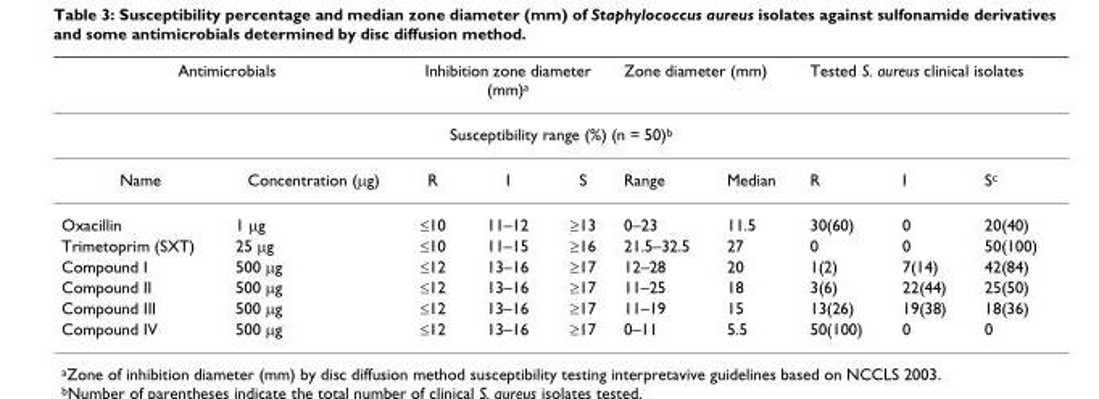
<table><thead><tr><td colspan="2">Antimicrobials</td><td colspan="3">Inhibition zone diameter (mm)<sup>a</sup></td><td colspan="2">Zone diameter (mm)</td><td colspan="3">Tested S. aureus clinical isolates</td></tr><tr><td colspan="10">Susceptibility range (%) (n = 50)<sup>b</sup></td></tr><tr><td>Name</td><td>Concentration (μg)</td><td>R</td><td>I</td><td>S</td><td>Range</td><td>Median</td><td>R</td><td>I</td><td>S<sup>c</sup></td></tr></thead><tbody><tr><td>Oxacillin</td><td>1 μg</td><td>≤10</td><td>11–12</td><td>≥13</td><td>0–23</td><td>11.5</td><td>30(60)</td><td>0</td><td>20(40)</td></tr><tr><td>Trimetoprim (SXT)</td><td>25 μg</td><td>≤10</td><td>11–15</td><td>≥16</td><td>21.5–32.5</td><td>27</td><td>0</td><td>0</td><td>50(100)</td></tr><tr><td>Compound I</td><td>500 μg</td><td>≤12</td><td>13–16</td><td>≥17</td><td>12–28</td><td>20</td><td>1(2)</td><td>7(14)</td><td>42(84)</td></tr><tr><td>Compound II</td><td>500 μg</td><td>≤12</td><td>13–16</td><td>≥17</td><td>11–25</td><td>18</td><td>3(6)</td><td>22(44)</td><td>25(50)</td></tr><tr><td>Compound III</td><td>500 μg</td><td>≤12</td><td>13–16</td><td>≥17</td><td>11–19</td><td>15</td><td>13(26)</td><td>19(38)</td><td>18(36)</td></tr><tr><td>Compound IV</td><td>500 μg</td><td>≤12</td><td>13–16</td><td>≥17</td><td>0–11</td><td>5.5</td><td>50(100)</td><td>0</td><td>0</td></tr></tbody></table>